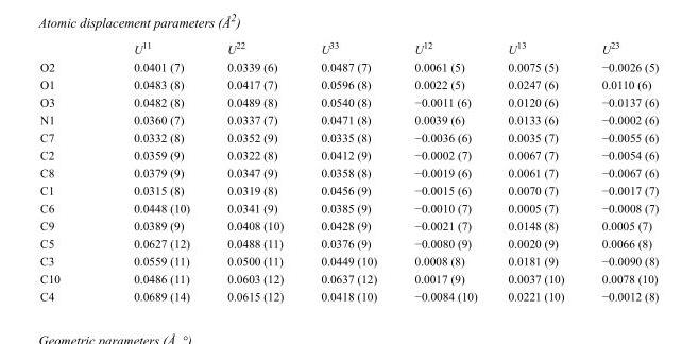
<table><thead><tr><td></td><td>U<sup>11</sup></td><td>U<sup>22</sup></td><td>U<sup>33</sup></td><td>U<sup>12</sup></td><td>U<sup>13</sup></td><td>U<sup>23</sup></td></tr></thead><tbody><tr><td>O2</td><td>0.0401 (7)</td><td>0.0339 (6)</td><td>0.0487 (7)</td><td>0.0061 (5)</td><td>0.0075 (5)</td><td>−0.0026 (5)</td></tr><tr><td>O1</td><td>0.0483 (8)</td><td>0.0417 (7)</td><td>0.0596 (8)</td><td>0.0022 (5)</td><td>0.0247 (6)</td><td>0.0110 (6)</td></tr><tr><td>O3</td><td>0.0482 (8)</td><td>0.0489 (8)</td><td>0.0540 (8)</td><td>−0.0011 (6)</td><td>0.0120 (6)</td><td>−0.0137 (6)</td></tr><tr><td>N1</td><td>0.0360 (7)</td><td>0.0337 (7)</td><td>0.0471 (8)</td><td>0.0039 (6)</td><td>0.0133 (6)</td><td>−0.0002 (6)</td></tr><tr><td>C7</td><td>0.0332 (8)</td><td>0.0352 (9)</td><td>0.0335 (8)</td><td>−0.0036 (6)</td><td>0.0035 (7)</td><td>−0.0055 (6)</td></tr><tr><td>C2</td><td>0.0359 (9)</td><td>0.0322 (8)</td><td>0.0412 (9)</td><td>−0.0002 (7)</td><td>0.0067 (7)</td><td>−0.0054 (6)</td></tr><tr><td>C8</td><td>0.0379 (9)</td><td>0.0347 (9)</td><td>0.0358 (8)</td><td>−0.0019 (6)</td><td>0.0061 (7)</td><td>−0.0067 (6)</td></tr><tr><td>C1</td><td>0.0315 (8)</td><td>0.0319 (8)</td><td>0.0456 (9)</td><td>−0.0015 (6)</td><td>0.0070 (7)</td><td>−0.0017 (7)</td></tr><tr><td>C6</td><td>0.0448 (10)</td><td>0.0341 (9)</td><td>0.0385 (9)</td><td>−0.0010 (7)</td><td>0.0005 (7)</td><td>−0.0008 (7)</td></tr><tr><td>C9</td><td>0.0389 (9)</td><td>0.0408 (10)</td><td>0.0428 (9)</td><td>−0.0021 (7)</td><td>0.0148 (8)</td><td>0.0005 (7)</td></tr><tr><td>C5</td><td>0.0627 (12)</td><td>0.0488 (11)</td><td>0.0376 (9)</td><td>−0.0080 (9)</td><td>0.0020 (9)</td><td>0.0066 (8)</td></tr><tr><td>C3</td><td>0.0559 (11)</td><td>0.0500 (11)</td><td>0.0449 (10)</td><td>0.0008 (8)</td><td>0.0181 (9)</td><td>−0.0090 (8)</td></tr><tr><td>C10</td><td>0.0486 (11)</td><td>0.0603 (12)</td><td>0.0637 (12)</td><td>0.0017 (9)</td><td>0.0037 (10)</td><td>0.0078 (10)</td></tr><tr><td>C4</td><td>0.0689 (14)</td><td>0.0615 (12)</td><td>0.0418 (10)</td><td>−0.0084 (10)</td><td>0.0221 (10)</td><td>−0.0012 (8)</td></tr></tbody></table>